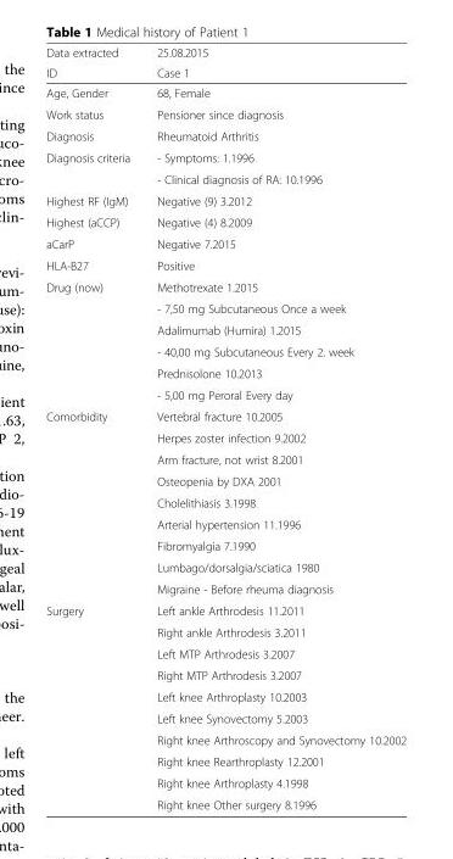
<table><thead><tr><td rowspan="2">Data extracted ID</td><td rowspan="2">25.08.2015 Case 1</td></tr><tr></tr></thead><tbody><tr><td>Age, Gender</td><td>68, Female</td></tr><tr><td>Work status</td><td>Pensioner since diagnosis</td></tr><tr><td>Diagnosis</td><td>Rheumatoid Arthritis</td></tr><tr><td rowspan="2">Diagnosis criteria</td><td>- Symptoms: 1.1996</td></tr><tr><td>- Clinical diagnosis of RA: 10.1996</td></tr><tr><td>Highest RF (IgM)</td><td>Negative (9) 3.2012</td></tr><tr><td>Highest (aCCP)</td><td>Negative (4) 8.2009</td></tr><tr><td>aCarP</td><td>Negative 7.2015</td></tr><tr><td>HLA-B27</td><td>Positive</td></tr><tr><td rowspan="6">Drug (now)</td><td>Methotrexate 1.2015</td></tr><tr><td>- 7,50 mg Subcutaneous Once a week</td></tr><tr><td>Adalimumab (Humira) 1.2015</td></tr><tr><td>- 40,00 mg Subcutaneous Every 2. week</td></tr><tr><td>Prednisolone 10.2013</td></tr><tr><td>- 5,00 mg Peroral Every day</td></tr><tr><td rowspan="9">Comorbidity</td><td>Vertebral fracture 10.2005</td></tr><tr><td>Herpes zoster infection 9.2002</td></tr><tr><td>Arm fracture, not wrist 8.2001</td></tr><tr><td>Osteopenia by DXA 2001</td></tr><tr><td>Cholelithiasis 3.1998</td></tr><tr><td>Arterial hypertension 11.1996</td></tr><tr><td>Fibromyalgia 7.1990</td></tr><tr><td>Lumbago/dorsalgia/sciatica 1980</td></tr><tr><td>Migraine - Before rheuma diagnosis</td></tr><tr><td rowspan="10">Surgery</td><td>Left ankle Arthrodesis 11.2011</td></tr><tr><td>Right ankle Arthrodesis 3.2011</td></tr><tr><td>Left MTP Arthrodesis 3.2007</td></tr><tr><td>Right MTP Arthrodesis 3.2007</td></tr><tr><td>Left knee Arthroplasty 10.2003</td></tr><tr><td>Left knee Synovectomy 5.2003</td></tr><tr><td>Right knee Arthroscopy and Synovectomy 10.2002</td></tr><tr><td>Right knee Rearthroplasty 12.2001</td></tr><tr><td>Right knee Arthroplasty 4.1998</td></tr><tr><td>Right knee Other surgery 8.1996</td></tr></tbody></table>